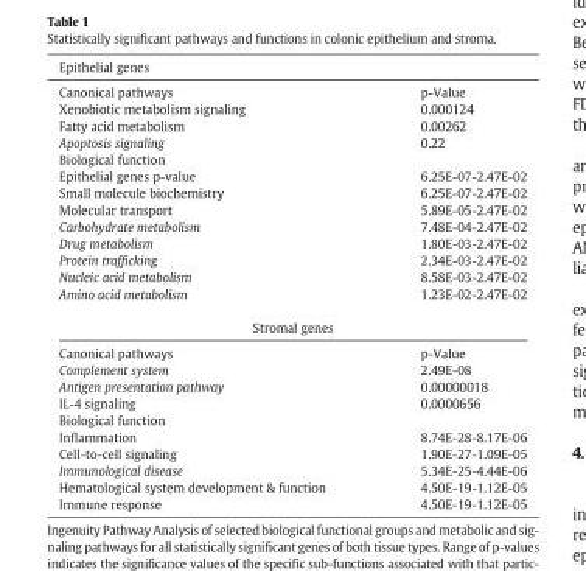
<table><thead><tr><td colspan="2">Epithelial genes</td></tr><tr><td>Canonical pathways</td><td>p-Value</td></tr></thead><tbody><tr><td>Xenobiotic metabolism signaling</td><td>0.000124</td></tr><tr><td>Fatty acid metabolism</td><td>0.00262</td></tr><tr><td>Apoptosis signaling</td><td>0.22</td></tr><tr><td colspan="2">Biological function</td></tr><tr><td>Epithelial genes p-value</td><td>6.25E-07-2.47E-02</td></tr><tr><td>Small molecule biochemistry</td><td>6.25E-07-2.47E-02</td></tr><tr><td>Molecular transport</td><td>5.89E-05-2.47E-02</td></tr><tr><td>Carbohydrate metabolism</td><td>7.48E-04-2.47E-02</td></tr><tr><td>Drug metabolism</td><td>1.80E-03-2.47E-02</td></tr><tr><td>Protein trafficking</td><td>2.34E-03-2.47E-02</td></tr><tr><td>Nucleic acid metabolism</td><td>8.58E-03-2.47E-02</td></tr><tr><td>Amino acid metabolism</td><td>1.23E-02-2.47E-02</td></tr><tr><td colspan="2">Stromal genes</td></tr><tr><td>Canonical pathways</td><td>p-Value</td></tr><tr><td>Complement system</td><td>2.49E-08</td></tr><tr><td>Antigen presentation pathway</td><td>0.00000018</td></tr><tr><td>IL-4 signaling</td><td>0.0000656</td></tr><tr><td colspan="2">Biological function</td></tr><tr><td>Inflammation</td><td>8.74E-28-8.17E-06</td></tr><tr><td>Cell-to-cell signaling</td><td>1.90E-27-1.09E-05</td></tr><tr><td>Immunological disease</td><td>5.34E-25-4.44E-06</td></tr><tr><td>Hematological system development &amp; function</td><td>4.50E-19-1.12E-05</td></tr><tr><td>Immune response</td><td>4.50E-19-1.12E-05</td></tr></tbody></table>